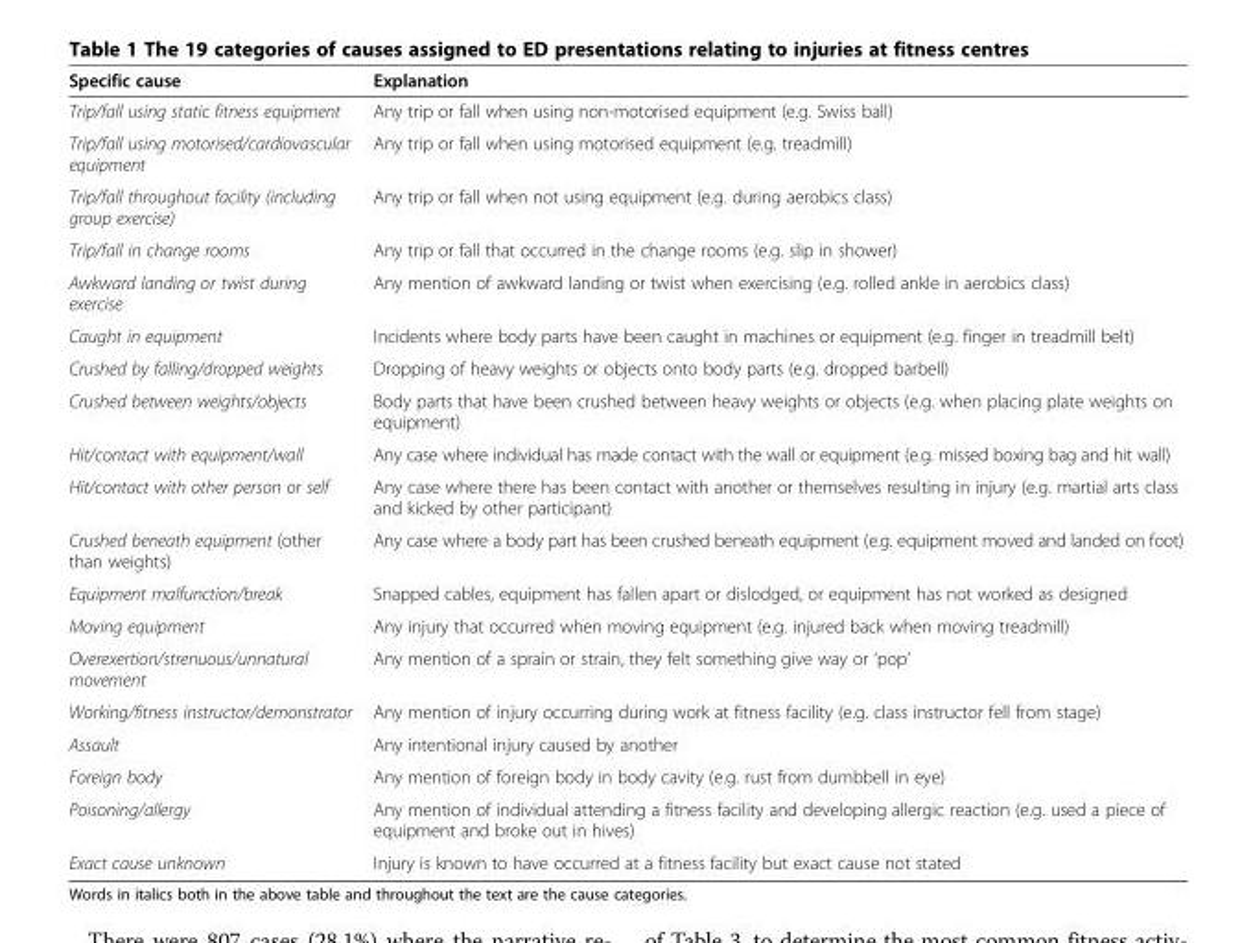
<table><thead><tr><td>Specific cause</td><td>Explanation</td></tr></thead><tbody><tr><td>Trip/fall using static fitness equipment</td><td>Any trip or fall when using non-motorised equipment (e.g. Swiss ball)</td></tr><tr><td>Trip/fall using motorised/cardiovascular equipment</td><td>Any trip or fall when using motorised equipment (e.g. treadmill)</td></tr><tr><td>Trip/fall throughout facility (including group exercise)</td><td>Any trip or fall when not using equipment (e.g. during aerobics class)</td></tr><tr><td>Trip/fall in change rooms</td><td>Any trip or fall that occurred in the change rooms (e.g. slip in shower)</td></tr><tr><td>Awkward landing or twist during exercise</td><td>Any mention of awkward landing or twist when exercising (e.g. rolled ankle in aerobics class)</td></tr><tr><td>Caught in equipment</td><td>Incidents where body parts have been caught in machines or equipment (e.g. finger in treadmill belt)</td></tr><tr><td>Crushed by falling/dropped weights</td><td>Dropping of heavy weights or objects onto body parts (e.g. dropped barbell)</td></tr><tr><td>Crushed between weights/objects</td><td>Body parts that have been crushed between heavy weights or objects (e.g. when placing plate weights on equipment)</td></tr><tr><td>Hit/contact with equipment/wall</td><td>Any case where individual has made contact with the wall or equipment (e.g. missed boxing bag and hit wall)</td></tr><tr><td>Hit/contact with other person or self</td><td>Any case where there has been contact with another or themselves resulting in injury (e.g. martial arts class and kicked by other participant)</td></tr><tr><td>Crushed beneath equipment (other than weights)</td><td>Any case where a body part has been crushed beneath equipment (e.g. equipment moved and landed on foot)</td></tr><tr><td>Equipment malfunction/break</td><td>Snapped cables, equipment has fallen apart or dislodged, or equipment has not worked as designed</td></tr><tr><td>Moving equipment</td><td>Any injury that occurred when moving equipment (e.g. injured back when moving treadmill)</td></tr><tr><td>Overexertion/strenuous/unnatural movement</td><td>Any mention of a sprain or strain, they felt something give way or ‘pop’</td></tr><tr><td>Working/fitness instructor/demonstrator</td><td>Any mention of injury occurring during work at fitness facility (e.g. class instructor fell from stage)</td></tr><tr><td>Assault</td><td>Any intentional injury caused by another</td></tr><tr><td>Foreign body</td><td>Any mention of foreign body in body cavity (e.g. rust from dumbbell in eye)</td></tr><tr><td>Poisoning/allergy</td><td>Any mention of individual attending a fitness facility and developing allergic reaction (e.g. used a piece of equipment and broke out in hives)</td></tr><tr><td>Exact cause unknown</td><td>Injury is known to have occurred at a fitness facility but exact cause not stated</td></tr></tbody></table>